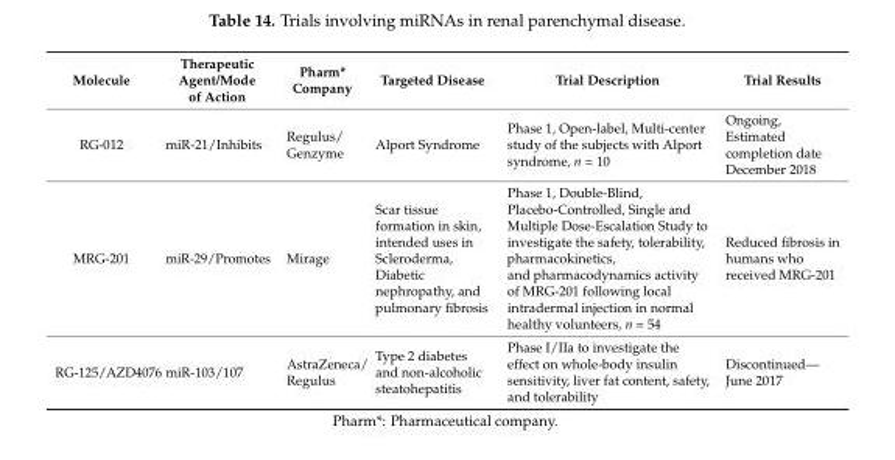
<table><thead><tr><td>Molecule</td><td>Therapeutic Agent/Mode of Action</td><td>Pharm* Company</td><td>Targeted Disease</td><td>Trial Description</td><td>Trial Results</td></tr></thead><tbody><tr><td>RG-012</td><td>miR-21/Inhibits</td><td>Regulus/ Genzyme</td><td>Alport Syndrome</td><td>Phase 1, Open-label, Multi-center study of the subjects with Alport syndrome, n = 10</td><td>Ongoing, Estimated completion date December 2018</td></tr><tr><td>MRG-201</td><td>miR-29/Promotes</td><td>Mirage</td><td>Scar tissue formation in skin, intended uses in Scleroderma, Diabetic nephropathy, and pulmonary fibrosis</td><td>Phase 1, Double-Blind, Placebo-Controlled, Single and Multiple Dose-Escalation Study to investigate the safety, tolerability, pharmacokinetics, and pharmacodynamics activity of MRG-201 following local intradermal injection in normal healthy volunteers, n = 54</td><td>Reduced fibrosis in humans who received MRG-201</td></tr><tr><td>RG-125/AZD4076</td><td>miR-103/107</td><td>AstraZeneca/ Regulus</td><td>Type 2 diabetes and non-alcoholic steatohepatitis</td><td>Phase I/IIa to investigate the effect on whole-body insulin sensitivity, liver fat content, safety, and tolerability</td><td>Discontinued— June 2017</td></tr></tbody></table>